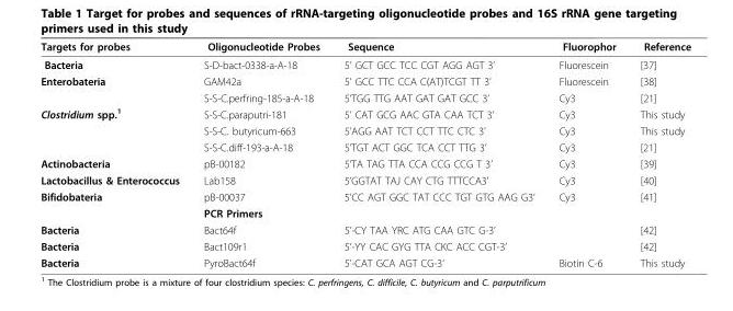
<table><thead><tr><td>Targets for probes</td><td>Oligonucleotide Probes</td><td>Sequence</td><td>Fluorophor</td><td>Reference</td></tr></thead><tbody><tr><td>Bacteria</td><td>S-D-bact-0338-a-A-18</td><td>5’ GCT GCC TCC CGT AGG AGT 3’</td><td>Fluorescein</td><td>[37]</td></tr><tr><td rowspan="2">Enterobateria</td><td>GAM42a</td><td>5’ GCC TTC CCA C(AT)TCGT TT 3’</td><td>Fluorescein</td><td>[38]</td></tr><tr><td>S-S-C.perfring-185-a-A-18</td><td>5’TGG TTG AAT GAT GAT GCC 3’</td><td>Cy3</td><td>[21]</td></tr><tr><td rowspan="3">Clostridium spp.<sup>1</sup></td><td>S-S-C.paraputri-181</td><td>5’ CAT GCG AAC GTA CAA TCT 3’</td><td>Cy3</td><td>This study</td></tr><tr><td>S-S-C. butyricum-663</td><td>5’AGG AAT TCT CCT TTC CTC 3’</td><td>Cy3</td><td>This study</td></tr><tr><td>S-S-C.diff-193-a-A-18</td><td>5’TGT ACT GGC TCA CCT TTG 3’</td><td>Cy3</td><td>[21]</td></tr><tr><td>Actinobacteria</td><td>pB-00182</td><td>5’TA TAG TTA CCA CCG CCG T 3’</td><td>Cy3</td><td>[39]</td></tr><tr><td>Lactobacillus &amp; Enterococcus</td><td>Lab158</td><td>5’GGTAT TAJ CAY CTG TTTCCA3’</td><td>Cy3</td><td>[40]</td></tr><tr><td rowspan="2">Bifidobateria</td><td>pB-00037</td><td>5’CC AGT GGC TAT CCC TGT GTG AAG G3’</td><td>Cy3</td><td>[41]</td></tr><tr><td>PCR Primers</td><td></td><td></td><td></td></tr><tr><td>Bacteria</td><td>Bact64f</td><td>5’-CY TAA YRC ATG CAA GTC G-3’</td><td></td><td>[42]</td></tr><tr><td>Bacteria</td><td>Bact109r1</td><td>5’-YY CAC GYG TTA CKC ACC CGT-3’</td><td></td><td>[42]</td></tr><tr><td>Bacteria</td><td>PyroBact64f</td><td>5’-CAT GCA AGT CG-3’</td><td>Biotin C-6</td><td>This study</td></tr></tbody></table>